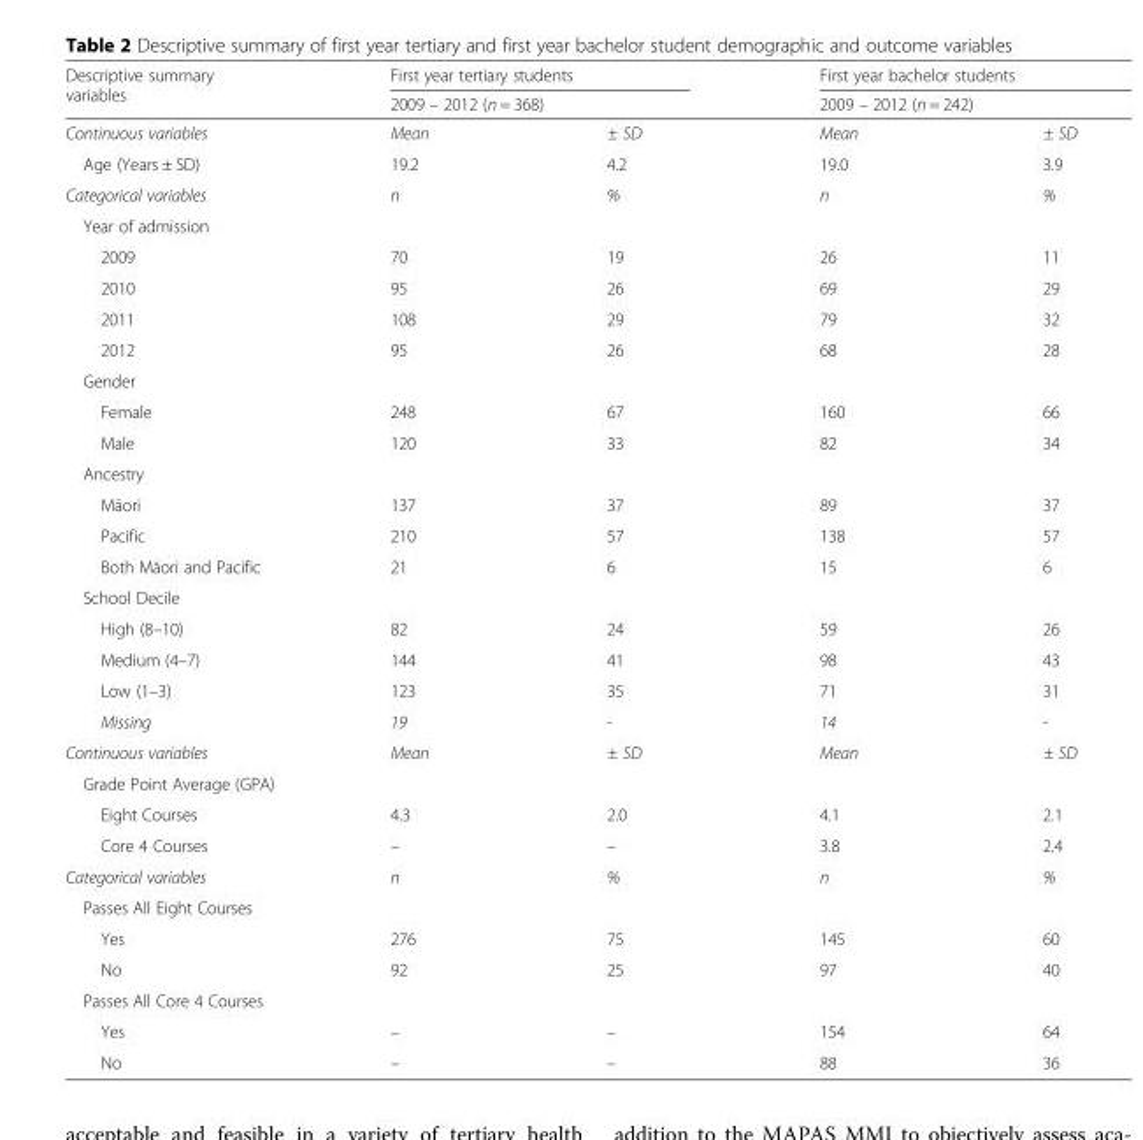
<table><thead><tr><td rowspan="3">Descriptive summary variables Continuous variables</td><td rowspan="2" colspan="2">First year tertiary students 2009 – 2012 (n = 368)</td><td rowspan="2" colspan="2">First year bachelor students 2009 – 2012 (n = 242)</td></tr><tr></tr><tr><td>Mean</td><td>± SD</td><td>Mean</td><td>± SD</td></tr></thead><tbody><tr><td>Age (Years ± SD)</td><td>19.2</td><td>4.2</td><td>19.0</td><td>3.9</td></tr><tr><td>Categorical variables</td><td>n</td><td>%</td><td>n</td><td>%</td></tr><tr><td colspan="5">Year of admission</td></tr><tr><td>2009</td><td>70</td><td>19</td><td>26</td><td>11</td></tr><tr><td>2010</td><td>95</td><td>26</td><td>69</td><td>29</td></tr><tr><td>2011</td><td>108</td><td>29</td><td>79</td><td>32</td></tr><tr><td>2012</td><td>95</td><td>26</td><td>68</td><td>28</td></tr><tr><td colspan="5">Gender</td></tr><tr><td>Female</td><td>248</td><td>67</td><td>160</td><td>66</td></tr><tr><td>Male</td><td>120</td><td>33</td><td>82</td><td>34</td></tr><tr><td colspan="5">Ancestry</td></tr><tr><td>Māori</td><td>137</td><td>37</td><td>89</td><td>37</td></tr><tr><td>Pacific</td><td>210</td><td>57</td><td>138</td><td>57</td></tr><tr><td>Both Māori and Pacific</td><td>21</td><td>6</td><td>15</td><td>6</td></tr><tr><td colspan="5">School Decile</td></tr><tr><td>High (8–10)</td><td>82</td><td>24</td><td>59</td><td>26</td></tr><tr><td>Medium (4–7)</td><td>144</td><td>41</td><td>98</td><td>43</td></tr><tr><td>Low (1–3)</td><td>123</td><td>35</td><td>71</td><td>31</td></tr><tr><td>Missing</td><td>19</td><td>-</td><td>14</td><td>-</td></tr><tr><td>Continuous variables</td><td>Mean</td><td>± SD</td><td>Mean</td><td>± SD</td></tr><tr><td colspan="5">Grade Point Average (GPA)</td></tr><tr><td>Eight Courses</td><td>4.3</td><td>2.0</td><td>4.1</td><td>2.1</td></tr><tr><td>Core 4 Courses</td><td>–</td><td>–</td><td>3.8</td><td>2.4</td></tr><tr><td>Categorical variables</td><td>n</td><td>%</td><td>n</td><td>%</td></tr><tr><td colspan="5">Passes All Eight Courses</td></tr><tr><td>Yes</td><td>276</td><td>75</td><td>145</td><td>60</td></tr><tr><td>No</td><td>92</td><td>25</td><td>97</td><td>40</td></tr><tr><td colspan="5">Passes All Core 4 Courses</td></tr><tr><td>Yes</td><td>–</td><td>–</td><td>154</td><td>64</td></tr><tr><td>No</td><td>–</td><td>–</td><td>88</td><td>36</td></tr></tbody></table>